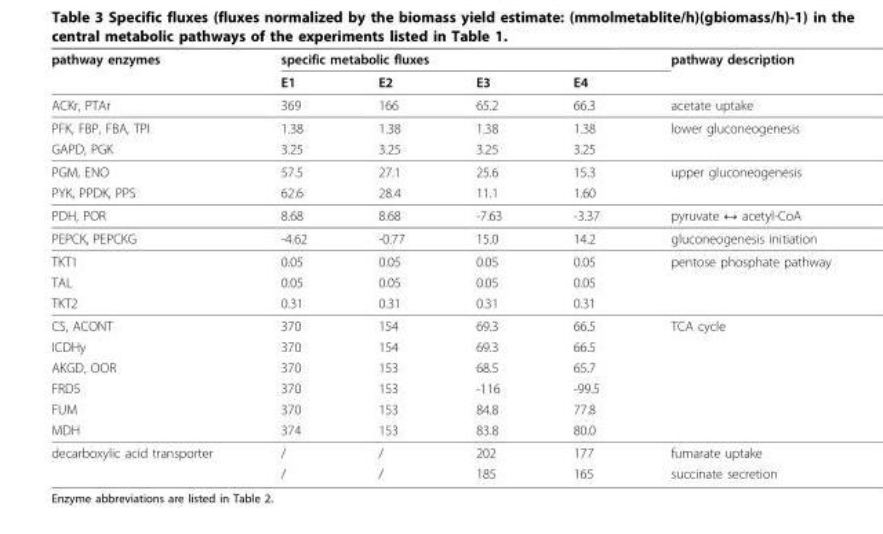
<table><thead><tr><td rowspan="2">pathway enzymes</td><td colspan="4">specific metabolic fluxes</td><td rowspan="2">pathway description</td></tr><tr><td>E1</td><td>E2</td><td>E3</td><td>E4</td></tr></thead><tbody><tr><td>ACKr, PTAr</td><td>369</td><td>166</td><td>65.2</td><td>66.3</td><td>acetate uptake</td></tr><tr><td>PFK, FBP, FBA, TPI</td><td>1.38</td><td>1.38</td><td>1.38</td><td>1.38</td><td>lower gluconeogenesis</td></tr><tr><td>GAPD, PGK</td><td>3.25</td><td>3.25</td><td>3.25</td><td>3.25</td><td></td></tr><tr><td>PGM, ENO</td><td>57.5</td><td>27.1</td><td>25.6</td><td>15.3</td><td>upper gluconeogenesis</td></tr><tr><td>PYK, PPDK, PPS</td><td>62.6</td><td>28.4</td><td>11.1</td><td>1.60</td><td></td></tr><tr><td>PDH, POR</td><td>8.68</td><td>8.68</td><td>-7.63</td><td>-3.37</td><td>pyruvate ↔ acetyl-CoA</td></tr><tr><td>PEPCK, PEPCKG</td><td>-4.62</td><td>-0.77</td><td>15.0</td><td>14.2</td><td>gluconeogenesis initiation</td></tr><tr><td>TKT1</td><td>0.05</td><td>0.05</td><td>0.05</td><td>0.05</td><td>pentose phosphate pathway</td></tr><tr><td>TAL</td><td>0.05</td><td>0.05</td><td>0.05</td><td>0.05</td><td></td></tr><tr><td>TKT2</td><td>0.31</td><td>0.31</td><td>0.31</td><td>0.31</td><td></td></tr><tr><td>CS, ACONT</td><td>370</td><td>154</td><td>69.3</td><td>66.5</td><td>TCA cycle</td></tr><tr><td>ICDHy</td><td>370</td><td>154</td><td>69.3</td><td>66.5</td><td></td></tr><tr><td>AKGD, OOR</td><td>370</td><td>153</td><td>68.5</td><td>65.7</td><td></td></tr><tr><td>FRD5</td><td>370</td><td>153</td><td>-116</td><td>-99.5</td><td></td></tr><tr><td>FUM</td><td>370</td><td>153</td><td>84.8</td><td>77.8</td><td></td></tr><tr><td>MDH</td><td>374</td><td>153</td><td>83.8</td><td>80.0</td><td></td></tr><tr><td rowspan="2">decarboxylic acid transporter</td><td>/</td><td>/</td><td>202</td><td>177</td><td>fumarate uptake</td></tr><tr><td>/</td><td>/</td><td>185</td><td>165</td><td>succinate secretion</td></tr></tbody></table>